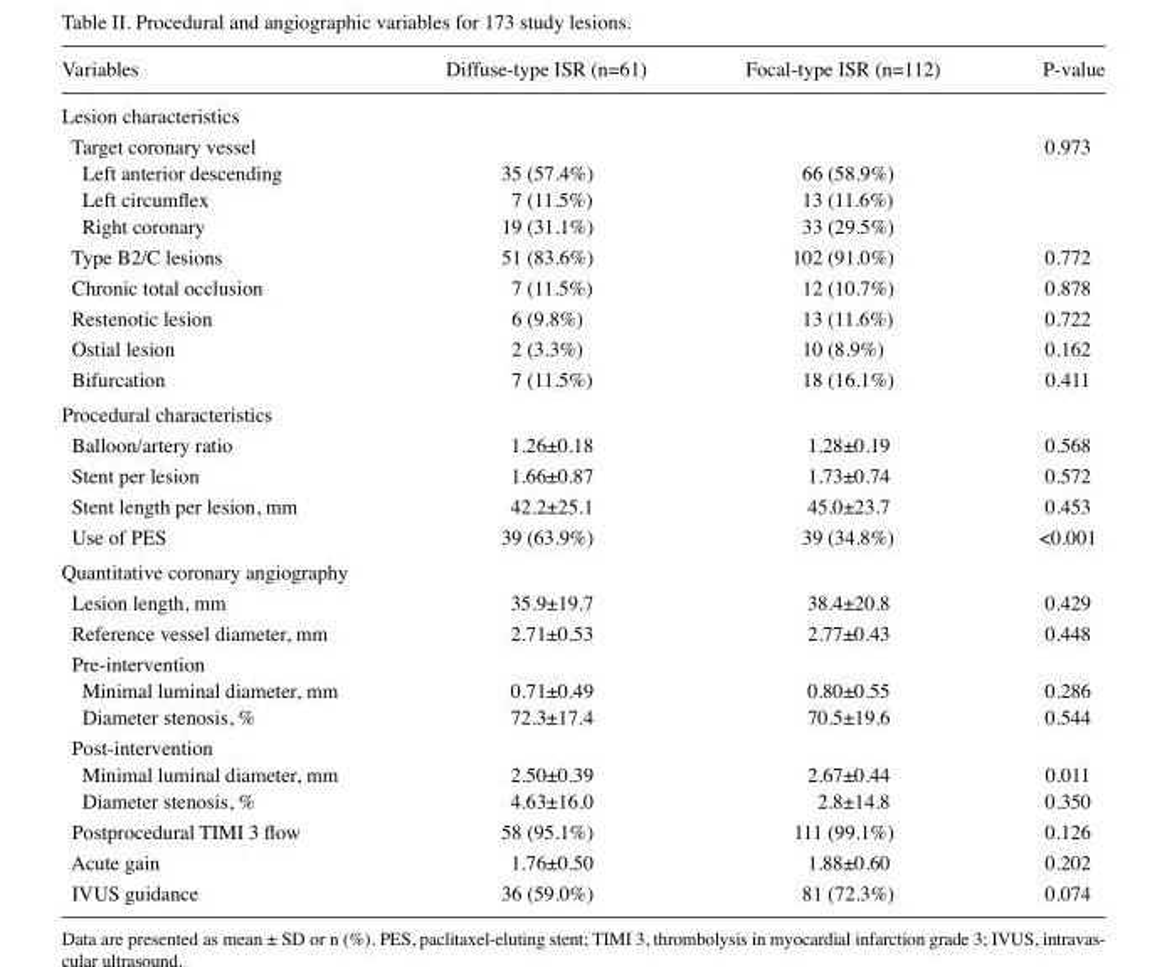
<table><thead><tr><td>Variables</td><td>Diffuse-type ISR (n=61)</td><td>Focal-type ISR (n=112)</td><td>P-value</td></tr></thead><tbody><tr><td colspan="4">Lesion characteristics</td></tr><tr><td>Target coronary vessel</td><td></td><td></td><td>0.973</td></tr><tr><td>Left anterior descending</td><td>35 (57.4%)</td><td>66 (58.9%)</td><td></td></tr><tr><td>Left circumflex</td><td>7 (11.5%)</td><td>13 (11.6%)</td><td></td></tr><tr><td>Right coronary</td><td>19 (31.1%)</td><td>33 (29.5%)</td><td></td></tr><tr><td>Type B2/C lesions</td><td>51 (83.6%)</td><td>102 (91.0%)</td><td>0.772</td></tr><tr><td>Chronic total occlusion</td><td>7 (11.5%)</td><td>12 (10.7%)</td><td>0.878</td></tr><tr><td>Restenotic lesion</td><td>6 (9.8%)</td><td>13 (11.6%)</td><td>0.722</td></tr><tr><td>Ostial lesion</td><td>2 (3.3%)</td><td>10 (8.9%)</td><td>0.162</td></tr><tr><td>Bifurcation</td><td>7 (11.5%)</td><td>18 (16.1%)</td><td>0.411</td></tr><tr><td colspan="4">Procedural characteristics</td></tr><tr><td>Balloon/artery ratio</td><td>1.26±0.18</td><td>1.28±0.19</td><td>0.568</td></tr><tr><td>Stent per lesion</td><td>1.66±0.87</td><td>1.73±0.74</td><td>0.572</td></tr><tr><td>Stent length per lesion, mm</td><td>42.2±25.1</td><td>45.0±23.7</td><td>0.453</td></tr><tr><td>Use of PES</td><td>39 (63.9%)</td><td>39 (34.8%)</td><td>&lt;0.001</td></tr><tr><td colspan="4">Quantitative coronary angiography</td></tr><tr><td>Lesion length, mm</td><td>35.9±19.7</td><td>38.4±20.8</td><td>0.429</td></tr><tr><td>Reference vessel diameter, mm</td><td>2.71±0.53</td><td>2.77±0.43</td><td>0.448</td></tr><tr><td colspan="4">Pre-intervention</td></tr><tr><td>Minimal luminal diameter, mm</td><td>0.71±0.49</td><td>0.80±0.55</td><td>0.286</td></tr><tr><td>Diameter stenosis, %</td><td>72.3±17.4</td><td>70.5±19.6</td><td>0.544</td></tr><tr><td colspan="4">Post-intervention</td></tr><tr><td>Minimal luminal diameter, mm</td><td>2.50±0.39</td><td>2.67±0.44</td><td>0.011</td></tr><tr><td>Diameter stenosis, %</td><td>4.63±16.0</td><td>2.8±14.8</td><td>0.350</td></tr><tr><td>Postprocedural TIMI 3 flow</td><td>58 (95.1%)</td><td>111 (99.1%)</td><td>0.126</td></tr><tr><td>Acute gain</td><td>1.76±0.50</td><td>1.88±0.60</td><td>0.202</td></tr><tr><td>IVUS guidance</td><td>36 (59.0%)</td><td>81 (72.3%)</td><td>0.074</td></tr></tbody></table>